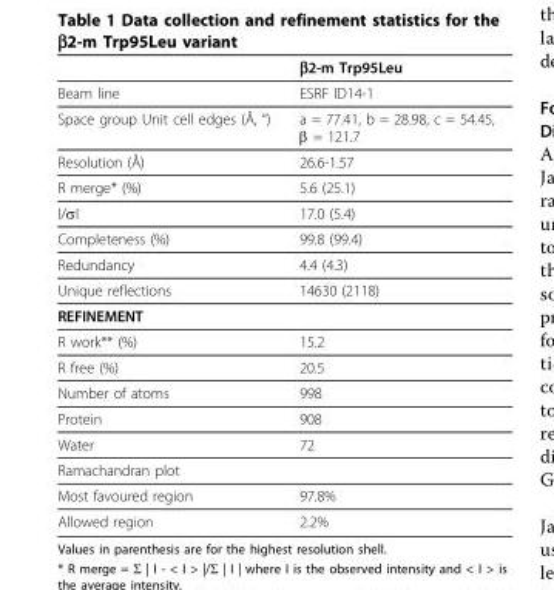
<table><thead><tr><td></td><td>β2-m Trp95Leu</td></tr></thead><tbody><tr><td>Beam line</td><td>ESRF ID14-1</td></tr><tr><td>Space group Unit cell edges (Å, °)</td><td>a = 77.41, b = 28.98, c = 54.45, β = 121.7</td></tr><tr><td>Resolution (Å)</td><td>26.6-1.57</td></tr><tr><td>R merge* (%)</td><td>5.6 (25.1)</td></tr><tr><td>I/σI</td><td>17.0 (5.4)</td></tr><tr><td>Completeness (%)</td><td>99.8 (99.4)</td></tr><tr><td>Redundancy</td><td>4.4 (4.3)</td></tr><tr><td>Unique reflections</td><td>14630 (2118)</td></tr><tr><td colspan="2">REFINEMENT</td></tr><tr><td>R work** (%)</td><td>15.2</td></tr><tr><td>R free (%)</td><td>20.5</td></tr><tr><td>Number of atoms</td><td>998</td></tr><tr><td>Protein</td><td>908</td></tr><tr><td>Water</td><td>72</td></tr><tr><td colspan="2">Ramachandran plot</td></tr><tr><td>Most favoured region</td><td>97.8%</td></tr><tr><td>Allowed region</td><td>2.2%</td></tr></tbody></table>